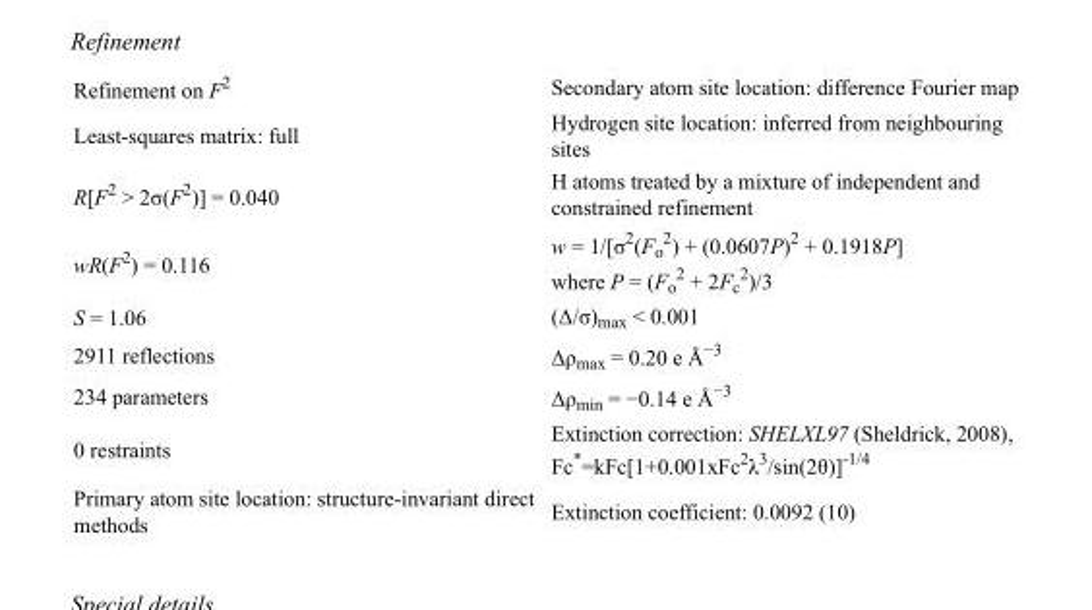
<table><tbody><tr><td>Refinement on F<sup>2</sup></td><td>Secondary atom site location: difference Fourier map</td></tr><tr><td>Least-squares matrix: full</td><td>Hydrogen site location: inferred from neighbouring sites</td></tr><tr><td>R[F<sup>2</sup> &gt; 2σ(F<sup>2</sup>)] = 0.040</td><td>H atoms treated by a mixture of independent and constrained refinement</td></tr><tr><td>wR(F<sup>2</sup>) = 0.116</td><td>w = 1/[σ<sup>2</sup>(F<sub>o</sub> <sup>2</sup>) + (0.0607P)<sup>2</sup> + 0.1918P] where P = (F<sub>o</sub> <sup>2</sup> + 2F<sub>c</sub> <sup>2</sup>)/3</td></tr><tr><td>S = 1.06</td><td>(Δ/σ)<sub>max</sub> &lt; 0.001</td></tr><tr><td>2911 reflections</td><td>Δρ<sub>max</sub> = 0.20 e Å<sup>−3</sup></td></tr><tr><td>234 parameters</td><td>Δρ<sub>min</sub> = −0.14 e Å<sup>−3</sup></td></tr><tr><td>0 restraints</td><td>Extinction correction: SHELXL97 (Sheldrick, 2008), Fc*=kFc[1+0.001xFc<sup>2</sup>λ<sup>3</sup>/sin(2θ)]<sup>-1/4</sup></td></tr><tr><td>Primary atom site location: structure-invariant direct methods</td><td>Extinction coefficient: 0.0092 (10)</td></tr></tbody></table>